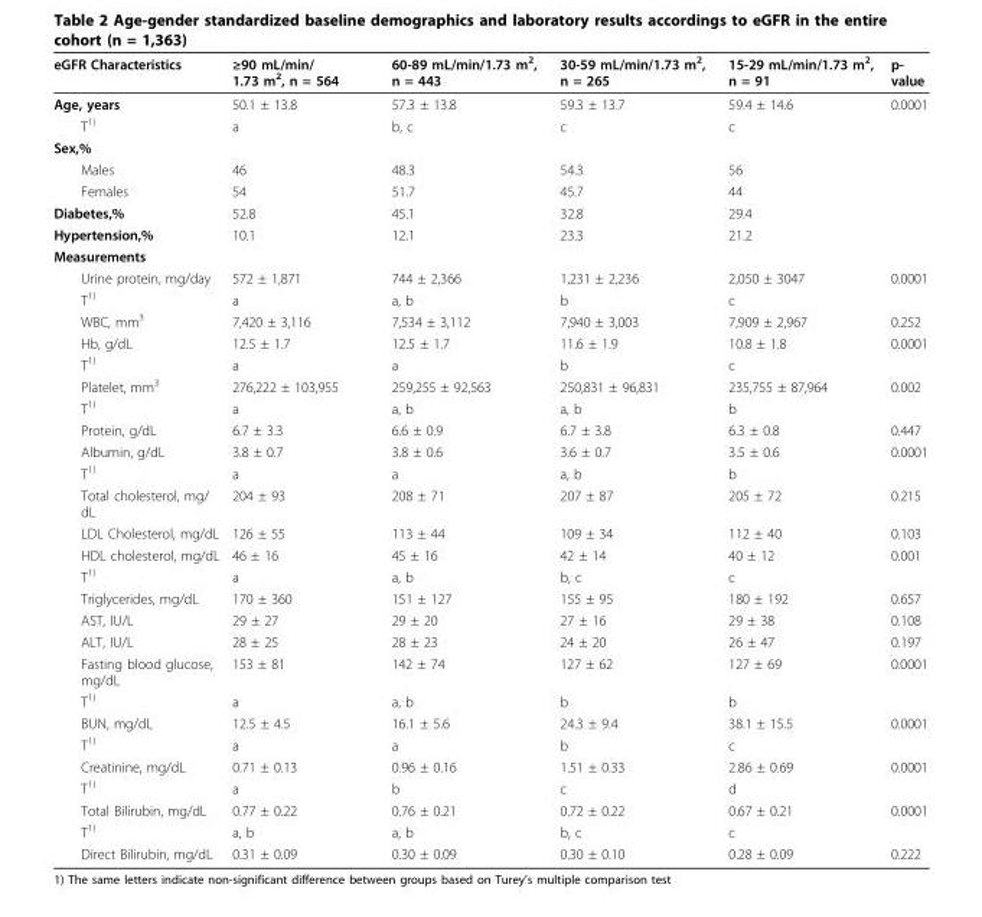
<table><thead><tr><td>eGFR Characteristics</td><td>≥90 mL/min/ 1.73 m<sup>2</sup>, n = 564</td><td>60-89 mL/min/1.73 m<sup>2</sup>, n = 443</td><td>30-59 mL/min/1.73 m<sup>2</sup>, n = 265</td><td>15-29 mL/min/1.73 m<sup>2</sup>, n = 91</td><td>p- value</td></tr></thead><tbody><tr><td>Age, years</td><td>50.1 ± 13.8</td><td>57.3 ± 13.8</td><td>59.3 ± 13.7</td><td>59.4 ± 14.6</td><td>0.0001</td></tr><tr><td>T<sup>1)</sup></td><td>a</td><td>b, c</td><td>c</td><td>c</td><td></td></tr><tr><td colspan="6">Sex,%</td></tr><tr><td>Males</td><td>46</td><td>48.3</td><td>54.3</td><td>56</td><td></td></tr><tr><td>Females</td><td>54</td><td>51.7</td><td>45.7</td><td>44</td><td></td></tr><tr><td>Diabetes,%</td><td>52.8</td><td>45.1</td><td>32.8</td><td>29.4</td><td></td></tr><tr><td>Hypertension,%</td><td>10.1</td><td>12.1</td><td>23.3</td><td>21.2</td><td></td></tr><tr><td colspan="6">Measurements</td></tr><tr><td>Urine protein, mg/day</td><td>572 ± 1,871</td><td>744 ± 2,366</td><td>1,231 ± 2,236</td><td>2,050 ± 3047</td><td>0.0001</td></tr><tr><td>T<sup>1)</sup></td><td>a</td><td>a, b</td><td>b</td><td>c</td><td></td></tr><tr><td>WBC, mm<sup>3</sup></td><td>7,420 ± 3,116</td><td>7,534 ± 3,112</td><td>7,940 ± 3,003</td><td>7,909 ± 2,967</td><td>0.252</td></tr><tr><td>Hb, g/dL</td><td>12.5 ± 1.7</td><td>12.5 ± 1.7</td><td>11.6 ± 1.9</td><td>10.8 ± 1.8</td><td>0.0001</td></tr><tr><td>T<sup>1)</sup></td><td>a</td><td>a</td><td>b</td><td>c</td><td></td></tr><tr><td>Platelet, mm<sup>3</sup></td><td>276,222 ± 103,955</td><td>259,255 ± 92,563</td><td>250,831 ± 96,831</td><td>235,755 ± 87,964</td><td>0.002</td></tr><tr><td>T<sup>1)</sup></td><td>a</td><td>a, b</td><td>a, b</td><td>b</td><td></td></tr><tr><td>Protein, g/dL</td><td>6.7 ± 3.3</td><td>6.6 ± 0.9</td><td>6.7 ± 3.8</td><td>6.3 ± 0.8</td><td>0.447</td></tr><tr><td>Albumin, g/dL</td><td>3.8 ± 0.7</td><td>3.8 ± 0.6</td><td>3.6 ± 0.7</td><td>3.5 ± 0.6</td><td>0.0001</td></tr><tr><td>T<sup>1)</sup></td><td>a</td><td>a</td><td>a, b</td><td>b</td><td></td></tr><tr><td>Total cholesterol, mg/ dL</td><td>204 ± 93</td><td>208 ± 71</td><td>207 ± 87</td><td>205 ± 72</td><td>0.215</td></tr><tr><td>LDL Cholesterol, mg/dL</td><td>126 ± 55</td><td>113 ± 44</td><td>109 ± 34</td><td>112 ± 40</td><td>0.103</td></tr><tr><td>HDL cholesterol, mg/dL</td><td>46 ± 16</td><td>45 ± 16</td><td>42 ± 14</td><td>40 ± 12</td><td>0.001</td></tr><tr><td>T<sup>1)</sup></td><td>a</td><td>a, b</td><td>b, c</td><td>c</td><td></td></tr><tr><td>Triglycerides, mg/dL</td><td>170 ± 360</td><td>151 ± 127</td><td>155 ± 95</td><td>180 ± 192</td><td>0.657</td></tr><tr><td>AST, IU/L</td><td>29 ± 27</td><td>29 ± 20</td><td>27 ± 16</td><td>29 ± 38</td><td>0.108</td></tr><tr><td>ALT, IU/L</td><td>28 ± 25</td><td>28 ± 23</td><td>24 ± 20</td><td>26 ± 47</td><td>0.197</td></tr><tr><td>Fasting blood glucose, mg/dL</td><td>153 ± 81</td><td>142 ± 74</td><td>127 ± 62</td><td>127 ± 69</td><td>0.0001</td></tr><tr><td>T<sup>1)</sup></td><td>a</td><td>a, b</td><td>b</td><td>b</td><td></td></tr><tr><td>BUN, mg/dL</td><td>12.5 ± 4.5</td><td>16.1 ± 5.6</td><td>24.3 ± 9.4</td><td>38.1 ± 15.5</td><td>0.0001</td></tr><tr><td>T<sup>1)</sup></td><td>a</td><td>a</td><td>b</td><td>c</td><td></td></tr><tr><td>Creatinine, mg/dL</td><td>0.71 ± 0.13</td><td>0.96 ± 0.16</td><td>1.51 ± 0.33</td><td>2.86 ± 0.69</td><td>0.0001</td></tr><tr><td>T<sup>1)</sup></td><td>a</td><td>b</td><td>c</td><td>d</td><td></td></tr><tr><td>Total Bilirubin, mg/dL</td><td>0.77 ± 0.22</td><td>0.76 ± 0.21</td><td>0.72 ± 0.22</td><td>0.67 ± 0.21</td><td>0.0001</td></tr><tr><td>T<sup>1)</sup></td><td>a, b</td><td>a, b</td><td>b, c</td><td>c</td><td></td></tr><tr><td>Direct Bilirubin, mg/dL</td><td>0.31 ± 0.09</td><td>0.30 ± 0.09</td><td>0.30 ± 0.10</td><td>0.28 ± 0.09</td><td>0.222</td></tr></tbody></table>